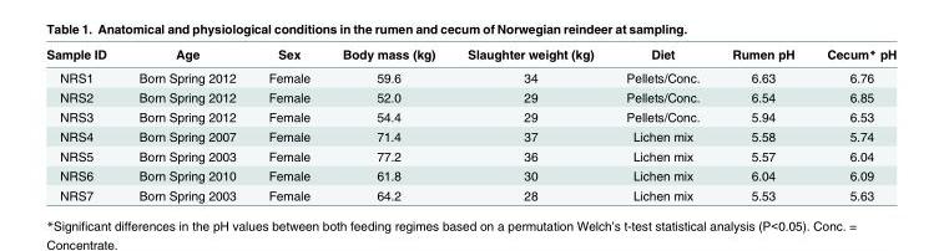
<table><thead><tr><td>Sample ID</td><td>Age</td><td>Sex</td><td>Body mass (kg)</td><td>Slaughter weight (kg)</td><td>Diet</td><td>Rumen pH</td><td>Cecum* pH</td></tr></thead><tbody><tr><td>NRS1</td><td>Born Spring 2012</td><td>Female</td><td>59.6</td><td>34</td><td>Pellets/Conc.</td><td>6.63</td><td>6.76</td></tr><tr><td>NRS2</td><td>Born Spring 2012</td><td>Female</td><td>52.0</td><td>29</td><td>Pellets/Conc.</td><td>6.54</td><td>6.85</td></tr><tr><td>NRS3</td><td>Born Spring 2012</td><td>Female</td><td>54.4</td><td>29</td><td>Pellets/Conc.</td><td>5.94</td><td>6.53</td></tr><tr><td>NRS4</td><td>Born Spring 2007</td><td>Female</td><td>71.4</td><td>37</td><td>Lichen mix</td><td>5.58</td><td>5.74</td></tr><tr><td>NRS5</td><td>Born Spring 2003</td><td>Female</td><td>77.2</td><td>36</td><td>Lichen mix</td><td>5.57</td><td>6.04</td></tr><tr><td>NRS6</td><td>Born Spring 2010</td><td>Female</td><td>61.8</td><td>30</td><td>Lichen mix</td><td>6.04</td><td>6.09</td></tr><tr><td>NRS7</td><td>Born Spring 2003</td><td>Female</td><td>64.2</td><td>28</td><td>Lichen mix</td><td>5.53</td><td>5.63</td></tr></tbody></table>